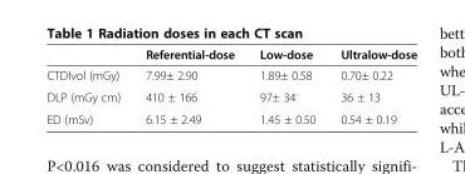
<table><thead><tr><td></td><td>Referential-dose</td><td>Low-dose</td><td>Ultralow-dose</td></tr></thead><tbody><tr><td>CTDIvol (mGy)</td><td>7.99± 2.90</td><td>1.89± 0.58</td><td>0.70± 0.22</td></tr><tr><td>DLP (mGy cm)</td><td>410 ± 166</td><td>97± 34</td><td>36 ± 13</td></tr><tr><td>ED (mSv)</td><td>6.15 ± 2.49</td><td>1.45 ± 0.50</td><td>0.54 ± 0.19</td></tr></tbody></table>